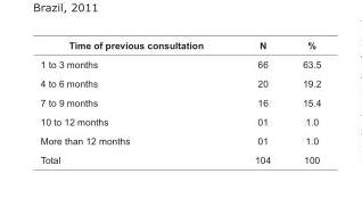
<table><tbody><tr><td>Time of previous consultation</td><td>N</td><td>%</td></tr><tr><td>1 to 3 months</td><td>66</td><td>63.5</td></tr><tr><td>4 to 6 months</td><td>20</td><td>19.2</td></tr><tr><td>7 to 9 months</td><td>16</td><td>15.4</td></tr><tr><td>10 to 12 months</td><td>01</td><td>1.0</td></tr><tr><td>More than 12 months</td><td>01</td><td>1.0</td></tr><tr><td>Total</td><td>104</td><td>100</td></tr></tbody></table>